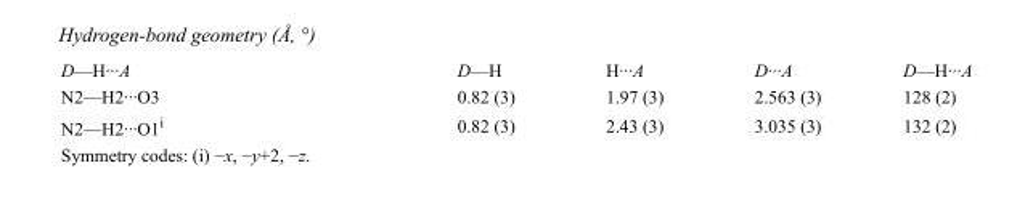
<table><tbody><tr><td>D—H···A</td><td>D—H</td><td>H···A</td><td>D···A</td><td>D—H···A</td></tr><tr><td>N2—H2···O3</td><td>0.82 (3)</td><td>1.97 (3)</td><td>2.563 (3)</td><td>128 (2)</td></tr><tr><td>N2—H2···O1<sup>i</sup></td><td>0.82 (3)</td><td>2.43 (3)</td><td>3.035 (3)</td><td>132 (2)</td></tr></tbody></table>